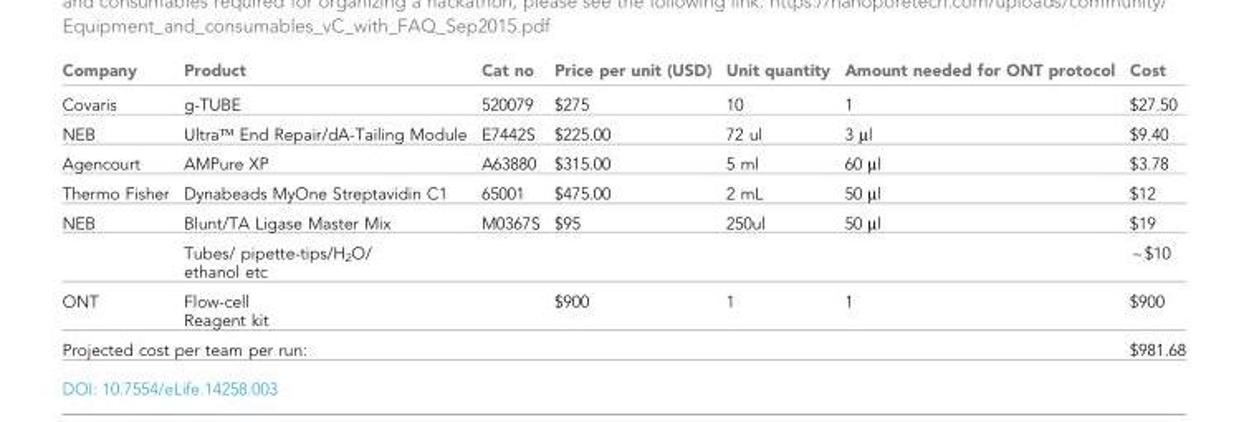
<table><thead><tr><td>Company</td><td>Product</td><td>Cat no</td><td>Price per unit (USD)</td><td>Unit quantity</td><td>Amount needed for ONT protocol</td><td>Cost</td></tr></thead><tbody><tr><td>Covaris</td><td>g-TUBE</td><td>520079</td><td>$275</td><td>10</td><td>1</td><td>$27.50</td></tr><tr><td>NEB</td><td>Ultra™ End Repair/dA-Tailing Module</td><td>E7442S</td><td>$225.00</td><td>72 ul</td><td>3 μl</td><td>$9.40</td></tr><tr><td>Agencourt</td><td>AMPure XP</td><td>A63880</td><td>$315.00</td><td>5 ml</td><td>60 μl</td><td>$3.78</td></tr><tr><td>Thermo Fisher</td><td>Dynabeads MyOne Streptavidin C1</td><td>65001</td><td>$475.00</td><td>2 mL</td><td>50 μl</td><td>$12</td></tr><tr><td rowspan="2">NEB</td><td>Blunt/TA Ligase Master Mix</td><td>M0367S</td><td>$95</td><td>250ul</td><td>50 μl</td><td>$19</td></tr><tr><td>Tubes/ pipette-tips/H<sub>2</sub>O/ ethanol etc</td><td></td><td></td><td></td><td></td><td>~ $10</td></tr><tr><td>ONT</td><td>Flow-cell Reagent kit</td><td></td><td>$900</td><td>1</td><td>1</td><td>$900</td></tr><tr><td colspan="2">Projected cost per team per run:</td><td></td><td></td><td></td><td></td><td>$981.68</td></tr></tbody></table>